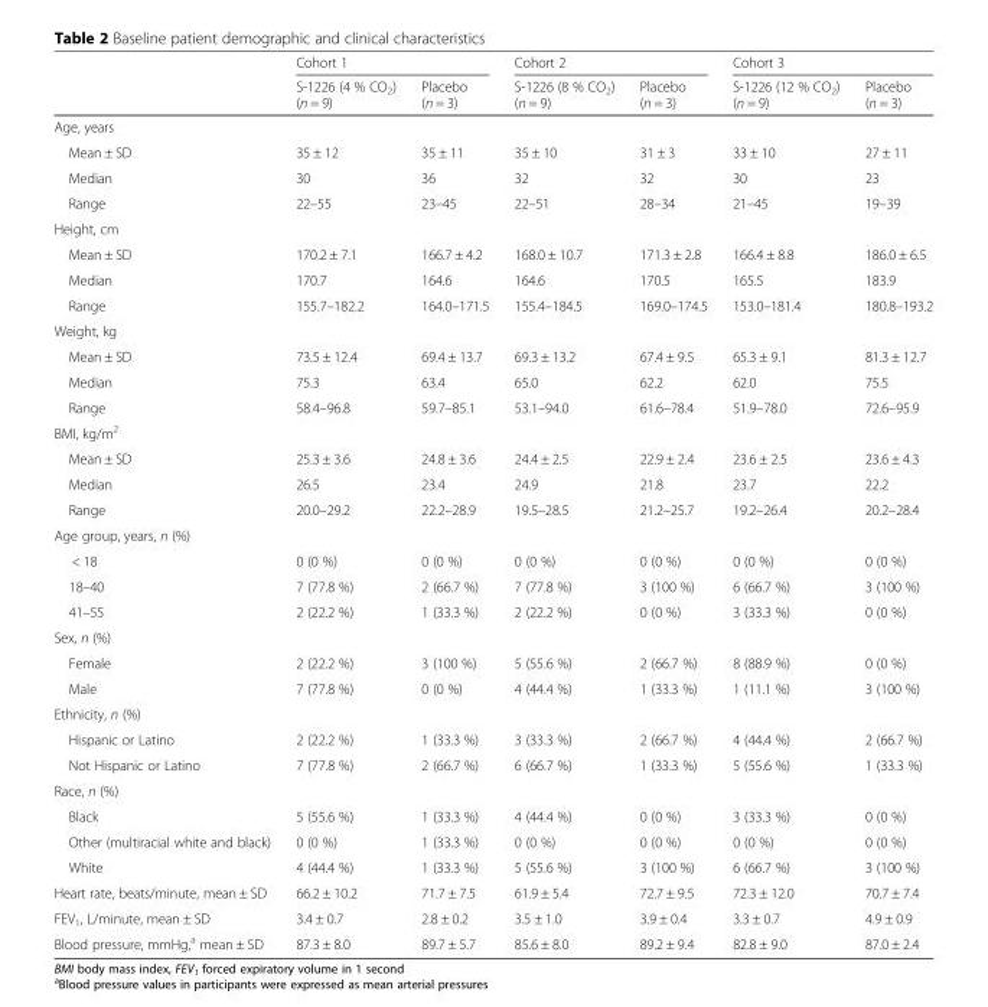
<table><thead><tr><td rowspan="2"></td><td colspan="2">Cohort 1</td><td colspan="2">Cohort 2</td><td colspan="2">Cohort 3</td></tr><tr><td>S-1226 (4 % CO<sub>2</sub>) (n = 9)</td><td>Placebo (n = 3)</td><td>S-1226 (8 % CO<sub>2</sub>) (n = 9)</td><td>Placebo (n = 3)</td><td>S-1226 (12 % CO<sub>2</sub>) (n = 9)</td><td>Placebo (n = 3)</td></tr></thead><tbody><tr><td colspan="7">Age, years</td></tr><tr><td>Mean ± SD</td><td>35 ± 12</td><td>35 ± 11</td><td>35 ± 10</td><td>31 ± 3</td><td>33 ± 10</td><td>27 ± 11</td></tr><tr><td>Median</td><td>30</td><td>36</td><td>32</td><td>32</td><td>30</td><td>23</td></tr><tr><td>Range</td><td>22–55</td><td>23–45</td><td>22–51</td><td>28–34</td><td>21–45</td><td>19–39</td></tr><tr><td colspan="7">Height, cm</td></tr><tr><td>Mean ± SD</td><td>170.2 ± 7.1</td><td>166.7 ± 4.2</td><td>168.0 ± 10.7</td><td>171.3 ± 2.8</td><td>166.4 ± 8.8</td><td>186.0 ± 6.5</td></tr><tr><td>Median</td><td>170.7</td><td>164.6</td><td>164.6</td><td>170.5</td><td>165.5</td><td>183.9</td></tr><tr><td>Range</td><td>155.7–182.2</td><td>164.0–171.5</td><td>155.4–184.5</td><td>169.0–174.5</td><td>153.0–181.4</td><td>180.8–193.2</td></tr><tr><td colspan="7">Weight, kg</td></tr><tr><td>Mean ± SD</td><td>73.5 ± 12.4</td><td>69.4 ± 13.7</td><td>69.3 ± 13.2</td><td>67.4 ± 9.5</td><td>65.3 ± 9.1</td><td>81.3 ± 12.7</td></tr><tr><td>Median</td><td>75.3</td><td>63.4</td><td>65.0</td><td>62.2</td><td>62.0</td><td>75.5</td></tr><tr><td>Range</td><td>58.4–96.8</td><td>59.7–85.1</td><td>53.1–94.0</td><td>61.6–78.4</td><td>51.9–78.0</td><td>72.6–95.9</td></tr><tr><td colspan="7">BMI, kg/m<sup>2</sup></td></tr><tr><td>Mean ± SD</td><td>25.3 ± 3.6</td><td>24.8 ± 3.6</td><td>24.4 ± 2.5</td><td>22.9 ± 2.4</td><td>23.6 ± 2.5</td><td>23.6 ± 4.3</td></tr><tr><td>Median</td><td>26.5</td><td>23.4</td><td>24.9</td><td>21.8</td><td>23.7</td><td>22.2</td></tr><tr><td>Range</td><td>20.0–29.2</td><td>22.2–28.9</td><td>19.5–28.5</td><td>21.2–25.7</td><td>19.2–26.4</td><td>20.2–28.4</td></tr><tr><td colspan="7">Age group, years, n (%)</td></tr><tr><td>&lt; 18</td><td>0 (0 %)</td><td>0 (0 %)</td><td>0 (0 %)</td><td>0 (0 %)</td><td>0 (0 %)</td><td>0 (0 %)</td></tr><tr><td>18–40</td><td>7 (77.8 %)</td><td>2 (66.7 %)</td><td>7 (77.8 %)</td><td>3 (100 %)</td><td>6 (66.7 %)</td><td>3 (100 %)</td></tr><tr><td>41–55</td><td>2 (22.2 %)</td><td>1 (33.3 %)</td><td>2 (22.2 %)</td><td>0 (0 %)</td><td>3 (33.3 %)</td><td>0 (0 %)</td></tr><tr><td colspan="7">Sex, n (%)</td></tr><tr><td>Female</td><td>2 (22.2 %)</td><td>3 (100 %)</td><td>5 (55.6 %)</td><td>2 (66.7 %)</td><td>8 (88.9 %)</td><td>0 (0 %)</td></tr><tr><td>Male</td><td>7 (77.8 %)</td><td>0 (0 %)</td><td>4 (44.4 %)</td><td>1 (33.3 %)</td><td>1 (11.1 %)</td><td>3 (100 %)</td></tr><tr><td colspan="7">Ethnicity, n (%)</td></tr><tr><td>Hispanic or Latino</td><td>2 (22.2 %)</td><td>1 (33.3 %)</td><td>3 (33.3 %)</td><td>2 (66.7 %)</td><td>4 (44.4 %)</td><td>2 (66.7 %)</td></tr><tr><td>Not Hispanic or Latino</td><td>7 (77.8 %)</td><td>2 (66.7 %)</td><td>6 (66.7 %)</td><td>1 (33.3 %)</td><td>5 (55.6 %)</td><td>1 (33.3 %)</td></tr><tr><td colspan="7">Race, n (%)</td></tr><tr><td>Black</td><td>5 (55.6 %)</td><td>1 (33.3 %)</td><td>4 (44.4 %)</td><td>0 (0 %)</td><td>3 (33.3 %)</td><td>0 (0 %)</td></tr><tr><td>Other (multiracial white and black)</td><td>0 (0 %)</td><td>1 (33.3 %)</td><td>0 (0 %)</td><td>0 (0 %)</td><td>0 (0 %)</td><td>0 (0 %)</td></tr><tr><td>White</td><td>4 (44.4 %)</td><td>1 (33.3 %)</td><td>5 (55.6 %)</td><td>3 (100 %)</td><td>6 (66.7 %)</td><td>3 (100 %)</td></tr><tr><td>Heart rate, beats/minute, mean ± SD</td><td>66.2 ± 10.2</td><td>71.7 ± 7.5</td><td>61.9 ± 5.4</td><td>72.7 ± 9.5</td><td>72.3 ± 12.0</td><td>70.7 ± 7.4</td></tr><tr><td>FEV<sub>1</sub>, L/minute, mean ± SD</td><td>3.4 ± 0.7</td><td>2.8 ± 0.2</td><td>3.5 ± 1.0</td><td>3.9 ± 0.4</td><td>3.3 ± 0.7</td><td>4.9 ± 0.9</td></tr><tr><td>Blood pressure, mmHg,<sup>a</sup> mean ± SD</td><td>87.3 ± 8.0</td><td>89.7 ± 5.7</td><td>85.6 ± 8.0</td><td>89.2 ± 9.4</td><td>82.8 ± 9.0</td><td>87.0 ± 2.4</td></tr></tbody></table>